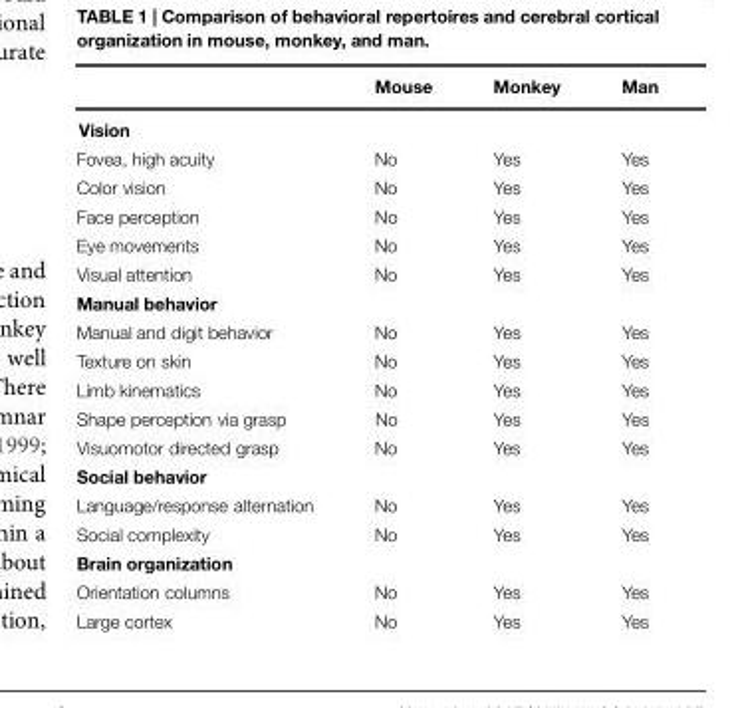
<table><thead><tr><td></td><td>Mouse</td><td>Monkey</td><td>Man</td></tr></thead><tbody><tr><td colspan="4">Vision</td></tr><tr><td>Fovea, high acuity</td><td>No</td><td>Yes</td><td>Yes</td></tr><tr><td>Color vision</td><td>No</td><td>Yes</td><td>Yes</td></tr><tr><td>Face perception</td><td>No</td><td>Yes</td><td>Yes</td></tr><tr><td>Eye movements</td><td>No</td><td>Yes</td><td>Yes</td></tr><tr><td>Visual attention</td><td>No</td><td>Yes</td><td>Yes</td></tr><tr><td colspan="4">Manual behavior</td></tr><tr><td>Manual and digit behavior</td><td>No</td><td>Yes</td><td>Yes</td></tr><tr><td>Texture on skin</td><td>No</td><td>Yes</td><td>Yes</td></tr><tr><td>Limb kinematics</td><td>No</td><td>Yes</td><td>Yes</td></tr><tr><td>Shape perception via grasp</td><td>No</td><td>Yes</td><td>Yes</td></tr><tr><td>Visuomotor directed grasp</td><td>No</td><td>Yes</td><td>Yes</td></tr><tr><td colspan="4">Social behavior</td></tr><tr><td>Language/response alternation</td><td>No</td><td>Yes</td><td>Yes</td></tr><tr><td>Social complexity</td><td>No</td><td>Yes</td><td>Yes</td></tr><tr><td colspan="4">Brain organization</td></tr><tr><td>Orientation columns</td><td>No</td><td>Yes</td><td>Yes</td></tr><tr><td>Large cortex</td><td>No</td><td>Yes</td><td>Yes</td></tr></tbody></table>